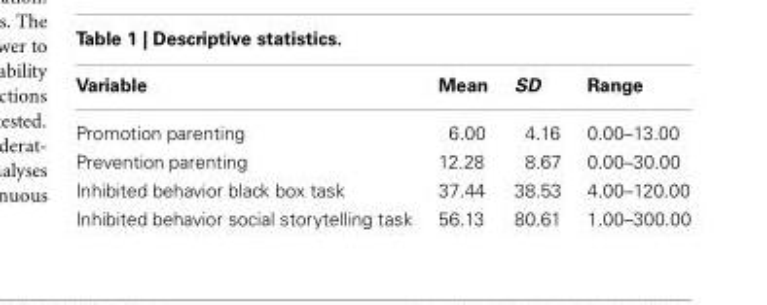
<table><thead><tr><td>Variable</td><td>Mean</td><td>SD</td><td>Range</td></tr></thead><tbody><tr><td>Promotion parenting</td><td>6.00</td><td>4.16</td><td>0.00–13.00</td></tr><tr><td>Prevention parenting</td><td>12.28</td><td>8.67</td><td>0.00–30.00</td></tr><tr><td>Inhibited behavior black box task</td><td>37.44</td><td>38.53</td><td>4.00–120.00</td></tr><tr><td>Inhibited behavior social storytelling task</td><td>56.13</td><td>80.61</td><td>1.00–300.00</td></tr></tbody></table>